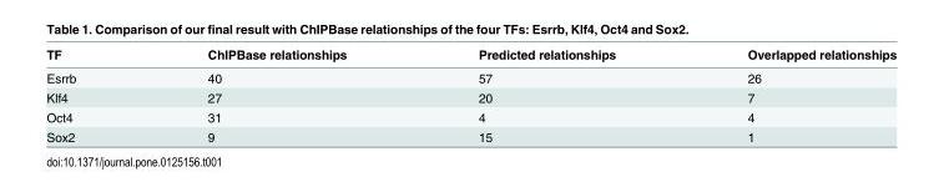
<table><thead><tr><td>TF</td><td>ChIPBase relationships</td><td>Predicted relationships</td><td>Overlapped relationships</td></tr></thead><tbody><tr><td>Esrrb</td><td>40</td><td>57</td><td>26</td></tr><tr><td>Klf4</td><td>27</td><td>20</td><td>7</td></tr><tr><td>Oct4</td><td>31</td><td>4</td><td>4</td></tr><tr><td>Sox2</td><td>9</td><td>15</td><td>1</td></tr></tbody></table>